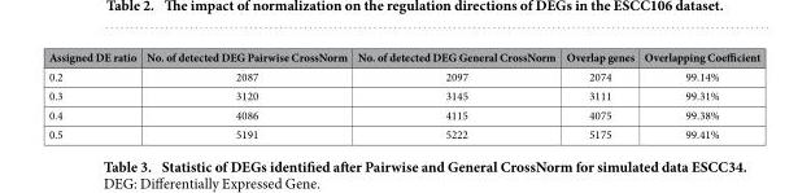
<table><thead><tr><td>Assigned DE ratio</td><td>No. of detected DEG Pairwise CrossNorm</td><td>No. of detected DEG General CrossNorm</td><td>Overlap genes</td><td>Overlapping Coefficient</td></tr></thead><tbody><tr><td>0.2</td><td>2087</td><td>2097</td><td>2074</td><td>99.14%</td></tr><tr><td>0.3</td><td>3120</td><td>3145</td><td>3111</td><td>99.31%</td></tr><tr><td>0.4</td><td>4086</td><td>4115</td><td>4075</td><td>99.38%</td></tr><tr><td>0.5</td><td>5191</td><td>5222</td><td>5175</td><td>99.41%</td></tr></tbody></table>